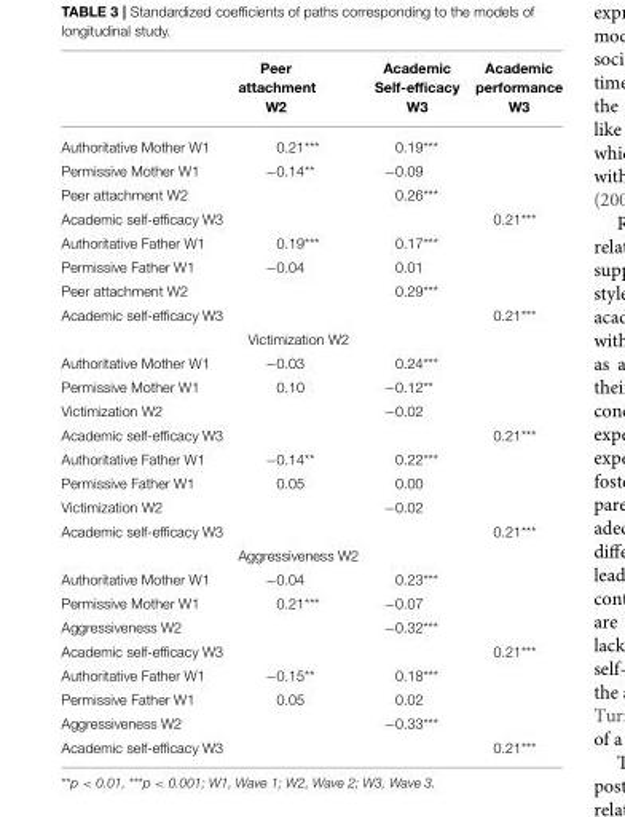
<table><thead><tr><td></td><td>Peer attachment W2</td><td>Academic Self-efficacy W3</td><td>Academic performance W3</td></tr></thead><tbody><tr><td>Authoritative Mother W1</td><td>0.21***</td><td>0.19***</td><td></td></tr><tr><td>Permissive Mother W1</td><td>−0.14**</td><td>−0.09</td><td></td></tr><tr><td>Peer attachment W2</td><td></td><td>0.26***</td><td></td></tr><tr><td>Academic self-efficacy W3</td><td></td><td></td><td>0.21***</td></tr><tr><td>Authoritative Father W1</td><td>0.19***</td><td>0.17***</td><td></td></tr><tr><td>Permissive Father W1</td><td>−0.04</td><td>0.01</td><td></td></tr><tr><td>Peer attachment W2</td><td></td><td>0.29***</td><td></td></tr><tr><td rowspan="2">Academic self-efficacy W3</td><td></td><td></td><td>0.21***</td></tr><tr><td>Victimization W2</td><td></td><td></td></tr><tr><td>Authoritative Mother W1</td><td>−0.03</td><td>0.24***</td><td></td></tr><tr><td>Permissive Mother W1</td><td>0.10</td><td>−0.12**</td><td></td></tr><tr><td>Victimization W2</td><td></td><td>−0.02</td><td></td></tr><tr><td>Academic self-efficacy W3</td><td></td><td></td><td>0.21***</td></tr><tr><td>Authoritative Father W1</td><td>−0.14**</td><td>0.22***</td><td></td></tr><tr><td>Permissive Father W1</td><td>0.05</td><td>0.00</td><td></td></tr><tr><td>Victimization W2</td><td></td><td>−0.02</td><td></td></tr><tr><td rowspan="2">Academic self-efficacy W3</td><td></td><td></td><td>0.21***</td></tr><tr><td>Aggressiveness W2</td><td></td><td></td></tr><tr><td>Authoritative Mother W1</td><td>−0.04</td><td>0.23***</td><td></td></tr><tr><td>Permissive Mother W1</td><td>0.21***</td><td>−0.07</td><td></td></tr><tr><td>Aggressiveness W2</td><td></td><td>−0.32***</td><td></td></tr><tr><td>Academic self-efficacy W3</td><td></td><td></td><td>0.21***</td></tr><tr><td>Authoritative Father W1</td><td>−0.15**</td><td>0.18***</td><td></td></tr><tr><td>Permissive Father W1</td><td>0.05</td><td>0.02</td><td></td></tr><tr><td>Aggressiveness W2</td><td></td><td>−0.33***</td><td></td></tr><tr><td>Academic self-efficacy W3</td><td></td><td></td><td>0.21***</td></tr></tbody></table>